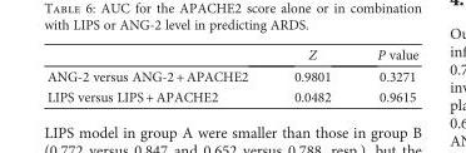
<table><thead><tr><td></td><td>Z</td><td>P value</td></tr></thead><tbody><tr><td>ANG-2 versus ANG-2 + APACHE2</td><td>0.9801</td><td>0.3271</td></tr><tr><td>LIPS versus LIPS + APACHE2</td><td>0.0482</td><td>0.9615</td></tr></tbody></table>